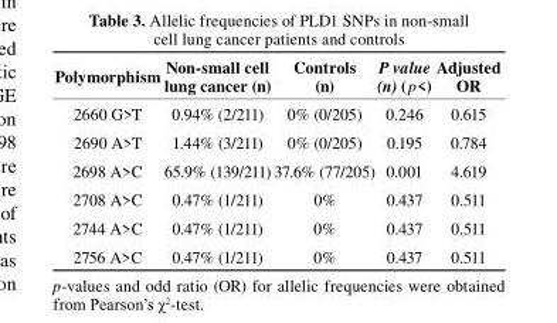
<table><thead><tr><td>Polymorphism</td><td>Non-small cell lung cancer (n)</td><td>controls (n)</td><td>P value (n) (p&lt;)</td><td>Adjusted Or</td></tr></thead><tbody><tr><td>2660 G&gt;T</td><td>0.94% (2/211)</td><td>0% (0/205)</td><td>0.246</td><td>0.615</td></tr><tr><td>2690 A&gt;T</td><td>1.44% (3/211)</td><td>0% (0/205)</td><td>0.195</td><td>0.784</td></tr><tr><td>2698 A&gt;C</td><td>65.9% (139/211)</td><td>37.6% (77/205)</td><td>0.001</td><td>4.619</td></tr><tr><td>2708 A&gt;C</td><td>0.47% (1/211)</td><td>0%</td><td>0.437</td><td>0.511</td></tr><tr><td>2744 A&gt;C</td><td>0.47% (1/211)</td><td>0%</td><td>0.437</td><td>0.511</td></tr><tr><td>2756 A&gt;C</td><td>0.47% (1/211)</td><td>0%</td><td>0.437</td><td>0.511</td></tr></tbody></table>